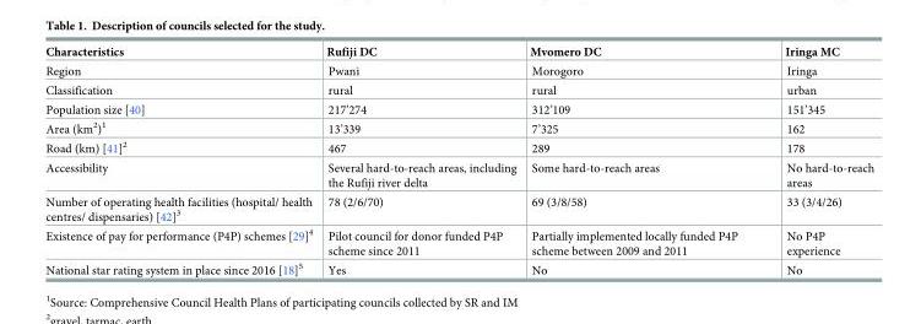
<table><thead><tr><td>Characteristics</td><td>Rufiji DC</td><td>Mvomero DC</td><td>Iringa MC</td></tr></thead><tbody><tr><td>Region</td><td>Pwani</td><td>Morogoro</td><td>Iringa</td></tr><tr><td>Classification</td><td>rural</td><td>rural</td><td>urban</td></tr><tr><td>Population size [40]</td><td>217’274</td><td>312’109</td><td>151’345</td></tr><tr><td>Area (km<sup>2</sup>)<sup>1</sup></td><td>13’339</td><td>7’325</td><td>162</td></tr><tr><td>Road (km) [41]<sup>2</sup></td><td>467</td><td>289</td><td>178</td></tr><tr><td>Accessibility</td><td>Several hard-to-reach areas, including the Rufiji river delta</td><td>Some hard-to-reach areas</td><td>No hard-to-reach areas</td></tr><tr><td>Number of operating health facilities (hospital/ health centres/ dispensaries) [42]<sup>3</sup></td><td>78 (2/6/70)</td><td>69 (3/8/58)</td><td>33 (3/4/26)</td></tr><tr><td>Existence of pay for performance (P4P) schemes [29]<sup>4</sup></td><td>Pilot council for donor funded P4P scheme since 2011</td><td>Partially implemented locally funded P4P scheme between 2009 and 2011</td><td>No P4P experience</td></tr><tr><td>National star rating system in place since 2016 [18]<sup>5</sup></td><td>Yes</td><td>No</td><td>No</td></tr></tbody></table>